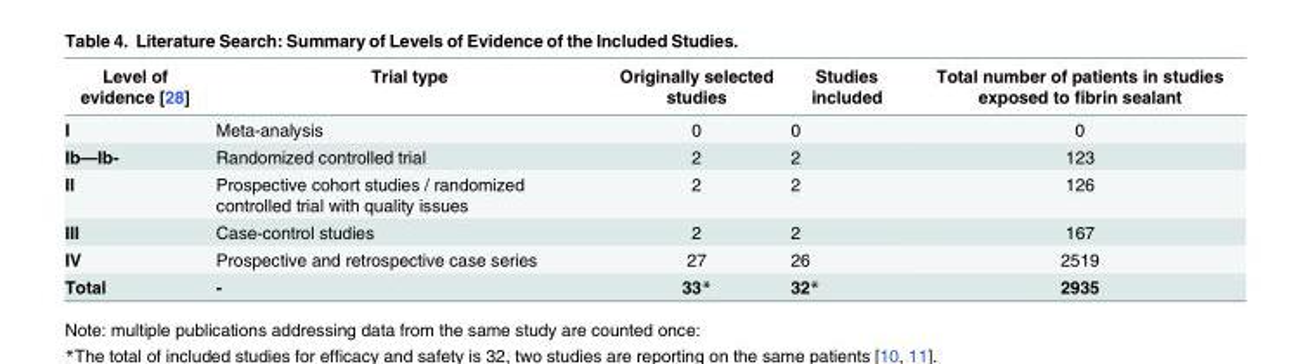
<table><thead><tr><td>Level of evidence [28]</td><td>Trial type</td><td>Originally selected studies</td><td>Studies included</td><td>Total number of patients in studies exposed to fibrin sealant</td></tr></thead><tbody><tr><td>I</td><td>Meta-analysis</td><td>0</td><td>0</td><td>0</td></tr><tr><td>Ib—Ib-</td><td>Randomized controlled trial</td><td>2</td><td>2</td><td>123</td></tr><tr><td>II</td><td>Prospective cohort studies / randomized controlled trial with quality issues</td><td>2</td><td>2</td><td>126</td></tr><tr><td>III</td><td>Case-control studies</td><td>2</td><td>2</td><td>167</td></tr><tr><td>IV</td><td>Prospective and retrospective case series</td><td>27</td><td>26</td><td>2519</td></tr><tr><td>Total</td><td>-</td><td>33*</td><td>32*</td><td>2935</td></tr></tbody></table>